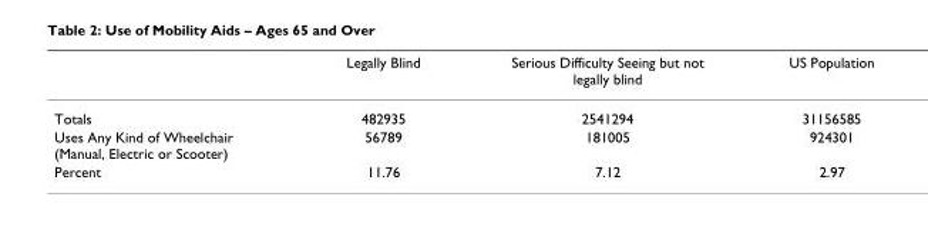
<table><thead><tr><td></td><td>Legally Blind</td><td>Serious Difficulty Seeing but not legally blind</td><td>US Population</td></tr></thead><tbody><tr><td>Totals</td><td>482935</td><td>2541294</td><td>31156585</td></tr><tr><td>Uses Any Kind of Wheelchair (Manual, Electric or Scooter)</td><td>56789</td><td>181005</td><td>924301</td></tr><tr><td>Percent</td><td>11.76</td><td>7.12</td><td>2.97</td></tr></tbody></table>